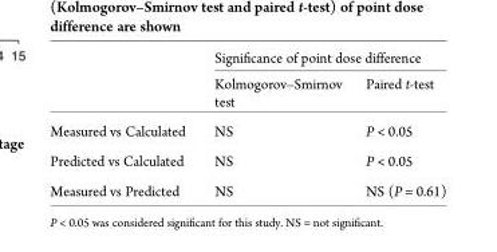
<table><thead><tr><td rowspan="2"></td><td colspan="2">Significance of point dose difference</td></tr><tr><td>Kolmogorov–Smirnov test</td><td>Paired t-test</td></tr></thead><tbody><tr><td>Measured vs Calculated</td><td>NS</td><td>P &lt; 0.05</td></tr><tr><td>Predicted vs Calculated</td><td>NS</td><td>P &lt; 0.05</td></tr><tr><td>Measured vs Predicted</td><td>NS</td><td>NS (P = 0.61)</td></tr></tbody></table>